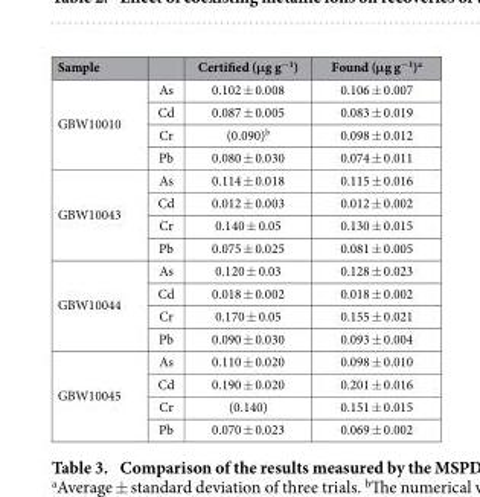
<table><thead><tr><td>Sample</td><td></td><td>Certified (μg g<sup>−1</sup>)</td><td>Found (μg g<sup>−1</sup>)<sup>a</sup></td></tr></thead><tbody><tr><td rowspan="4">GBW10010</td><td>As</td><td>0.102 ± 0.008</td><td>0.106 ± 0.007</td></tr><tr><td>Cd</td><td>0.087 ± 0.005</td><td>0.083 ± 0.019</td></tr><tr><td>Cr</td><td>(0.090)<sup>b</sup></td><td>0.098 ± 0.012</td></tr><tr><td>Pb</td><td>0.080 ± 0.030</td><td>0.074 ± 0.011</td></tr><tr><td rowspan="4">GBW10043</td><td>As</td><td>0.114 ± 0.018</td><td>0.115 ± 0.016</td></tr><tr><td>Cd</td><td>0.012 ± 0.003</td><td>0.012 ± 0.002</td></tr><tr><td>Cr</td><td>0.140 ± 0.05</td><td>0.130 ± 0.015</td></tr><tr><td>Pb</td><td>0.075 ± 0.025</td><td>0.081 ± 0.005</td></tr><tr><td rowspan="4">GBW10044</td><td>As</td><td>0.120 ± 0.03</td><td>0.128 ± 0.023</td></tr><tr><td>Cd</td><td>0.018 ± 0.002</td><td>0.018 ± 0.002</td></tr><tr><td>Cr</td><td>0.170 ± 0.05</td><td>0.155 ± 0.021</td></tr><tr><td>Pb</td><td>0.090 ± 0.030</td><td>0.093 ± 0.004</td></tr><tr><td rowspan="4">GBW10045</td><td>As</td><td>0.110 ± 0.020</td><td>0.098 ± 0.010</td></tr><tr><td>Cd</td><td>0.190 ± 0.020</td><td>0.201 ± 0.016</td></tr><tr><td>Cr</td><td>(0.140)</td><td>0.151 ± 0.015</td></tr><tr><td>Pb</td><td>0.070 ± 0.023</td><td>0.069 ± 0.002</td></tr></tbody></table>